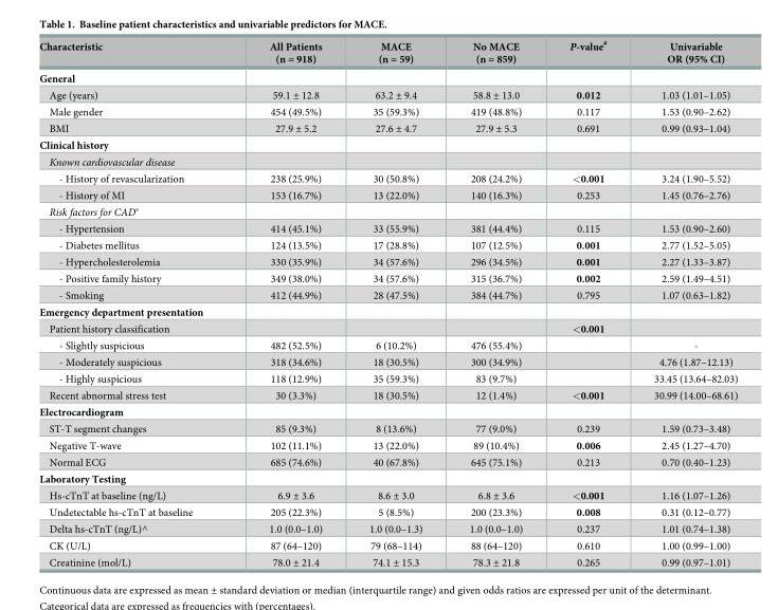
<table><thead><tr><td>Characteristic</td><td>All Patients (n = 918)</td><td>MACE (n = 59)</td><td>No MACE (n = 859)</td><td>P-value<sup>#</sup></td><td>Univariable OR (95% CI)</td></tr></thead><tbody><tr><td colspan="6">General</td></tr><tr><td>Age (years)</td><td>59.1 ± 12.8</td><td>63.2 ± 9.4</td><td>58.8 ± 13.0</td><td>0.012</td><td>1.03 (1.01–1.05)</td></tr><tr><td>Male gender</td><td>454 (49.5%)</td><td>35 (59.3%)</td><td>419 (48.8%)</td><td>0.117</td><td>1.53 (0.90–2.62)</td></tr><tr><td>BMI</td><td>27.9 ± 5.2</td><td>27.6 ± 4.7</td><td>27.9 ± 5.3</td><td>0.691</td><td>0.99 (0.93–1.04)</td></tr><tr><td colspan="6">Clinical history</td></tr><tr><td colspan="6">Known cardiovascular disease</td></tr><tr><td>- History of revascularization</td><td>238 (25.9%)</td><td>30 (50.8%)</td><td>208 (24.2%)</td><td>&lt;0.001</td><td>3.24 (1.90–5.52)</td></tr><tr><td>- History of MI</td><td>153 (16.7%)</td><td>13 (22.0%)</td><td>140 (16.3%)</td><td>0.253</td><td>1.45 (0.76–2.76)</td></tr><tr><td colspan="6">Risk factors for CAD*</td></tr><tr><td>- Hypertension</td><td>414 (45.1%)</td><td>33 (55.9%)</td><td>381 (44.4%)</td><td>0.115</td><td>1.53 (0.90–2.60)</td></tr><tr><td>- Diabetes mellitus</td><td>124 (13.5%)</td><td>17 (28.8%)</td><td>107 (12.5%)</td><td>0.001</td><td>2.77 (1.52–5.05)</td></tr><tr><td>- Hypercholesterolemia</td><td>330 (35.9%)</td><td>34 (57.6%)</td><td>296 (34.5%)</td><td>0.001</td><td>2.27 (1.33–3.87)</td></tr><tr><td>- Positive family history</td><td>349 (38.0%)</td><td>34 (57.6%)</td><td>315 (36.7%)</td><td>0.002</td><td>2.59 (1.49–4.51)</td></tr><tr><td>- Smoking</td><td>412 (44.9%)</td><td>28 (47.5%)</td><td>384 (44.7%)</td><td>0.795</td><td>1.07 (0.63–1.82)</td></tr><tr><td colspan="6">Emergency department presentation</td></tr><tr><td>Patient history classification</td><td></td><td></td><td></td><td>&lt;0.001</td><td></td></tr><tr><td>- Slightly suspicious</td><td>482 (52.5%)</td><td>6 (10.2%)</td><td>476 (55.4%)</td><td></td><td>-</td></tr><tr><td>- Moderately suspicious</td><td>318 (34.6%)</td><td>18 (30.5%)</td><td>300 (34.9%)</td><td></td><td>4.76 (1.87–12.13)</td></tr><tr><td>- Highly suspicious</td><td>118 (12.9%)</td><td>35 (59.3%)</td><td>83 (9.7%)</td><td></td><td>33.45 (13.64–82.03)</td></tr><tr><td>Recent abnormal stress test</td><td>30 (3.3%)</td><td>18 (30.5%)</td><td>12 (1.4%)</td><td>&lt;0.001</td><td>30.99 (14.00–68.61)</td></tr><tr><td colspan="6">Electrocardiogram</td></tr><tr><td>ST-T segment changes</td><td>85 (9.3%)</td><td>8 (13.6%)</td><td>77 (9.0%)</td><td>0.239</td><td>1.59 (0.73–3.48)</td></tr><tr><td>Negative T-wave</td><td>102 (11.1%)</td><td>13 (22.0%)</td><td>89 (10.4%)</td><td>0.006</td><td>2.45 (1.27–4.70)</td></tr><tr><td>Normal ECG</td><td>685 (74.6%)</td><td>40 (67.8%)</td><td>645 (75.1%)</td><td>0.213</td><td>0.70 (0.40–1.23)</td></tr><tr><td colspan="6">Laboratory Testing</td></tr><tr><td>Hs-cTnT at baseline (ng/L)</td><td>6.9 ± 3.6</td><td>8.6 ± 3.0</td><td>6.8 ± 3.6</td><td>&lt;0.001</td><td>1.16 (1.07–1.26)</td></tr><tr><td>Undetectable hs-cTnT at baseline</td><td>205 (22.3%)</td><td>5 (8.5%)</td><td>200 (23.3%)</td><td>0.008</td><td>0.31 (0.12–0.77)</td></tr><tr><td>Delta hs-cTnT (ng/L)^</td><td>1.0 (0.0–1.0)</td><td>1.0 (0.0–1.3)</td><td>1.0 (0.0–1.0)</td><td>0.237</td><td>1.01 (0.74–1.38)</td></tr><tr><td>CK (U/L)</td><td>87 (64–120)</td><td>79 (68–114)</td><td>88 (64–120)</td><td>0.610</td><td>1.00 (0.99–1.00)</td></tr><tr><td>Creatinine (mol/L)</td><td>78.0 ± 21.4</td><td>74.1 ± 15.3</td><td>78.3 ± 21.8</td><td>0.265</td><td>0.99 (0.97–1.01)</td></tr></tbody></table>